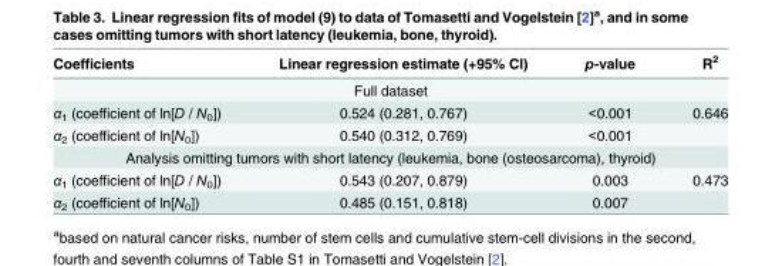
<table><thead><tr><td>Coefficients</td><td>Linear regression estimate (+95% CI)</td><td>p-value</td><td>R<sup>2</sup></td></tr></thead><tbody><tr><td colspan="4">Full dataset</td></tr><tr><td>α<sub>1</sub> (coefficient of ln[D / N<sub>0</sub>])</td><td>0.524 (0.281, 0.767)</td><td>&lt;0.001</td><td>0.646</td></tr><tr><td>α<sub>2</sub> (coefficient of ln[N<sub>0</sub>])</td><td>0.540 (0.312, 0.769)</td><td>&lt;0.001</td><td></td></tr><tr><td colspan="4">Analysis omitting tumors with short latency (leukemia, bone (osteosarcoma), thyroid)</td></tr><tr><td>α<sub>1</sub> (coefficient of ln[D / N<sub>0</sub>])</td><td>0.543 (0.207, 0.879)</td><td>0.003</td><td>0.473</td></tr><tr><td>α<sub>2</sub> (coefficient of ln[N<sub>0</sub>])</td><td>0.485 (0.151, 0.818)</td><td>0.007</td><td></td></tr></tbody></table>